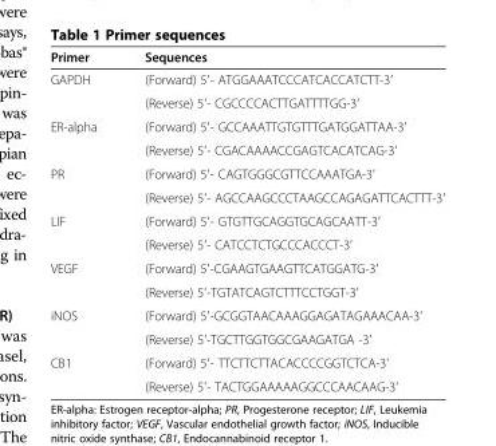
<table><thead><tr><td>Primer</td><td>Sequences</td></tr></thead><tbody><tr><td rowspan="2">GAPDH</td><td>(Forward) 5′- ATGGAAATCCCATCACCATCTT-3′</td></tr><tr><td>(Reverse) 5′- CGCCCCACTTGATTTTGG-3′</td></tr><tr><td rowspan="2">ER-alpha</td><td>(Forward) 5′- GCCAAATTGTGTTTGATGGATTAA-3′</td></tr><tr><td>(Reverse) 5′- CGACAAAACCGAGTCACATCAG-3′</td></tr><tr><td rowspan="2">PR</td><td>(Forward) 5′- CAGTGGGCGTTCCAAATGA-3′</td></tr><tr><td>(Reverse) 5′- AGCCAAGCCCTAAGCCAGAGATTCACTTT-3′</td></tr><tr><td rowspan="2">LIF</td><td>(Forward) 5′- GTGTTGCAGGTGCAGCAATT-3′</td></tr><tr><td>(Reverse) 5′- CATCCTCTGCCCACCCT-3′</td></tr><tr><td rowspan="2">VEGF</td><td>(Forward) 5′-CGAAGTGAAGTTCATGGATG-3′</td></tr><tr><td>(Reverse) 5′-TGTATCAGTCTTTCCTGGT-3′</td></tr><tr><td rowspan="2">iNOS</td><td>(Forward) 5′-GCGGTAACAAAGGAGATAGAAACAA-3′</td></tr><tr><td>(Reverse) 5′-TGCTTGGTGGCGAAGATGA -3′</td></tr><tr><td rowspan="2">CB1</td><td>(Forward) 5′- TTCTTCTTACACCCCGGTCTCA-3′</td></tr><tr><td>(Reverse) 5′- TACTGGAAAAAGGCCCAACAAG-3′</td></tr></tbody></table>